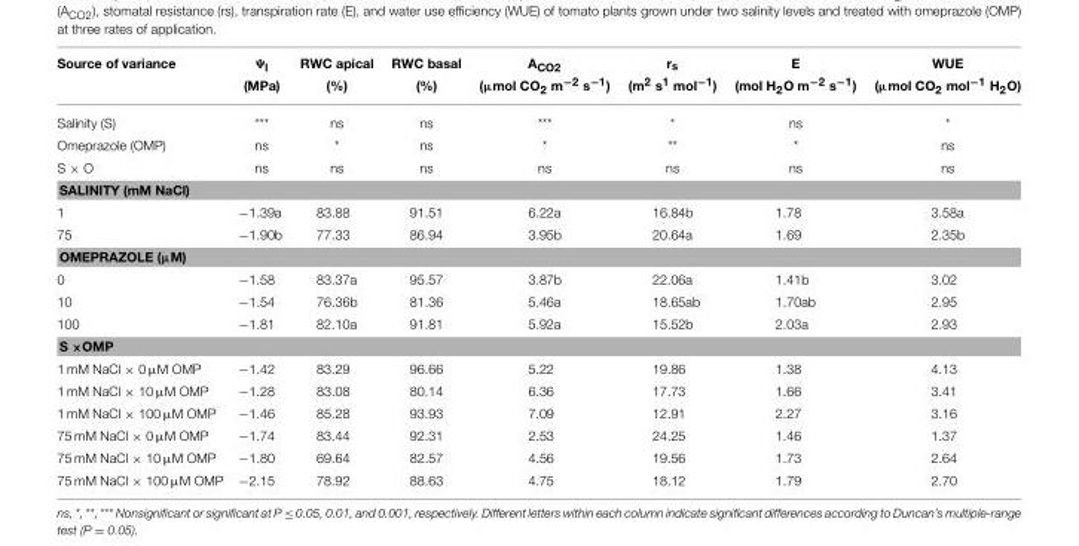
<table><thead><tr><td rowspan="2">Source of variance</td><td rowspan="2">Ψ<sub>l</sub> (MPa)</td><td rowspan="2">RWC apical (%)</td><td rowspan="2">RWC basal (%)</td><td rowspan="2">A<sub>CO2</sub> (µmol CO<sub>2</sub> m<sup>−2</sup> s<sup>−1</sup>)</td><td rowspan="2">r<sub>s</sub> (m<sup>2</sup> s<sup>1</sup> mol<sup>−1</sup>)</td><td rowspan="2">E (mol H<sub>2</sub>O m<sup>−2</sup> s<sup>−1</sup>)</td><td rowspan="2">WUE (µmol CO<sub>2</sub> mol<sup>−1</sup> H<sub>2</sub>O)</td></tr><tr></tr></thead><tbody><tr><td>Salinity (S)</td><td>***</td><td>ns</td><td>ns</td><td>***</td><td>*</td><td>ns</td><td>*</td></tr><tr><td>Omeprazole (OMP)</td><td>ns</td><td>*</td><td>ns</td><td>*</td><td>**</td><td>*</td><td>ns</td></tr><tr><td>S × O</td><td>ns</td><td>ns</td><td>ns</td><td>ns</td><td>ns</td><td>ns</td><td>ns</td></tr><tr><td colspan="8">SALINITY (mM NaCl)</td></tr><tr><td>1</td><td>−1.39a</td><td>83.88</td><td>91.51</td><td>6.22a</td><td>16.84b</td><td>1.78</td><td>3.58a</td></tr><tr><td>75</td><td>−1.90b</td><td>77.33</td><td>86.94</td><td>3.95b</td><td>20.64a</td><td>1.69</td><td>2.35b</td></tr><tr><td colspan="8">OMEPRAZOLE (µM)</td></tr><tr><td>0</td><td>−1.58</td><td>83.37a</td><td>95.57</td><td>3.87b</td><td>22.06a</td><td>1.41b</td><td>3.02</td></tr><tr><td>10</td><td>−1.54</td><td>76.36b</td><td>81.36</td><td>5.46a</td><td>18.65ab</td><td>1.70ab</td><td>2.95</td></tr><tr><td>100</td><td>−1.81</td><td>82.10a</td><td>91.81</td><td>5.92a</td><td>15.52b</td><td>2.03a</td><td>2.93</td></tr><tr><td colspan="8">S ×OMP</td></tr><tr><td>1 mM NaCl × 0 µM OMP</td><td>−1.42</td><td>83.29</td><td>96.66</td><td>5.22</td><td>19.86</td><td>1.38</td><td>4.13</td></tr><tr><td>1 mM NaCl × 10 µM OMP</td><td>−1.28</td><td>83.08</td><td>80.14</td><td>6.36</td><td>17.73</td><td>1.66</td><td>3.41</td></tr><tr><td>1 mM NaCl × 100 µM OMP</td><td>−1.46</td><td>85.28</td><td>93.93</td><td>7.09</td><td>12.91</td><td>2.27</td><td>3.16</td></tr><tr><td>75 mM NaCl × 0 µM OMP</td><td>−1.74</td><td>83.44</td><td>92.31</td><td>2.53</td><td>24.25</td><td>1.46</td><td>1.37</td></tr><tr><td>75 mM NaCl × 10 µM OMP</td><td>−1.80</td><td>69.64</td><td>82.57</td><td>4.56</td><td>19.56</td><td>1.73</td><td>2.64</td></tr><tr><td>75 mM NaCl × 100 µM OMP</td><td>−2.15</td><td>78.92</td><td>88.63</td><td>4.75</td><td>18.12</td><td>1.79</td><td>2.70</td></tr></tbody></table>